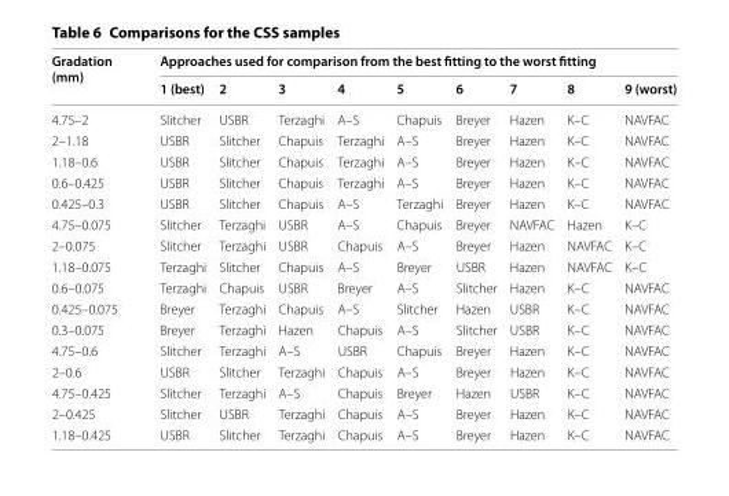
<table><thead><tr><td rowspan="2">Gradation (mm)</td><td colspan="9">Approaches used for comparison from the best fitting to the worst fitting</td></tr><tr><td>1 (best)</td><td>2</td><td>3</td><td>4</td><td>5</td><td>6</td><td>7</td><td>8</td><td>9 (worst)</td></tr></thead><tbody><tr><td>4.75–2</td><td>Slitcher</td><td>USBR</td><td>Terzaghi</td><td>A–S</td><td>Chapuis</td><td>Breyer</td><td>Hazen</td><td>K–C</td><td>NAVFAC</td></tr><tr><td>2–1.18</td><td>USBR</td><td>Slitcher</td><td>Chapuis</td><td>Terzaghi</td><td>A–S</td><td>Breyer</td><td>Hazen</td><td>K–C</td><td>NAVFAC</td></tr><tr><td>1.18–0.6</td><td>USBR</td><td>Slitcher</td><td>Chapuis</td><td>Terzaghi</td><td>A–S</td><td>Breyer</td><td>Hazen</td><td>K–C</td><td>NAVFAC</td></tr><tr><td>0.6–0.425</td><td>USBR</td><td>Slitcher</td><td>Chapuis</td><td>Terzaghi</td><td>A–S</td><td>Breyer</td><td>Hazen</td><td>K–C</td><td>NAVFAC</td></tr><tr><td>0.425–0.3</td><td>USBR</td><td>Slitcher</td><td>Chapuis</td><td>A–S</td><td>Terzaghi</td><td>Breyer</td><td>Hazen</td><td>K–C</td><td>NAVFAC</td></tr><tr><td>4.75–0.075</td><td>Slitcher</td><td>Terzaghi</td><td>USBR</td><td>A–S</td><td>Chapuis</td><td>Breyer</td><td>NAVFAC</td><td>Hazen</td><td>K–C</td></tr><tr><td>2–0.075</td><td>Slitcher</td><td>Terzaghi</td><td>USBR</td><td>Chapuis</td><td>A–S</td><td>Breyer</td><td>Hazen</td><td>NAVFAC</td><td>K–C</td></tr><tr><td>1.18–0.075</td><td>Terzaghi</td><td>Slitcher</td><td>Chapuis</td><td>A–S</td><td>Breyer</td><td>USBR</td><td>Hazen</td><td>NAVFAC</td><td>K–C</td></tr><tr><td>0.6–0.075</td><td>Terzaghi</td><td>Chapuis</td><td>USBR</td><td>Breyer</td><td>A–S</td><td>Slitcher</td><td>Hazen</td><td>K–C</td><td>NAVFAC</td></tr><tr><td>0.425–0.075</td><td>Breyer</td><td>Terzaghi</td><td>Chapuis</td><td>A–S</td><td>Slitcher</td><td>Hazen</td><td>USBR</td><td>K–C</td><td>NAVFAC</td></tr><tr><td>0.3–0.075</td><td>Breyer</td><td>Terzaghi</td><td>Hazen</td><td>Chapuis</td><td>A–S</td><td>Slitcher</td><td>USBR</td><td>K–C</td><td>NAVFAC</td></tr><tr><td>4.75–0.6</td><td>Slitcher</td><td>Terzaghi</td><td>A–S</td><td>USBR</td><td>Chapuis</td><td>Breyer</td><td>Hazen</td><td>K–C</td><td>NAVFAC</td></tr><tr><td>2–0.6</td><td>USBR</td><td>Slitcher</td><td>Terzaghi</td><td>Chapuis</td><td>A–S</td><td>Breyer</td><td>Hazen</td><td>K–C</td><td>NAVFAC</td></tr><tr><td>4.75–0.425</td><td>Slitcher</td><td>Terzaghi</td><td>A–S</td><td>Chapuis</td><td>Breyer</td><td>Hazen</td><td>USBR</td><td>K–C</td><td>NAVFAC</td></tr><tr><td>2–0.425</td><td>Slitcher</td><td>USBR</td><td>Terzaghi</td><td>Chapuis</td><td>A–S</td><td>Breyer</td><td>Hazen</td><td>K–C</td><td>NAVFAC</td></tr><tr><td>1.18–0.425</td><td>USBR</td><td>Slitcher</td><td>Terzaghi</td><td>Chapuis</td><td>A–S</td><td>Breyer</td><td>Hazen</td><td>K–C</td><td>NAVFAC</td></tr></tbody></table>